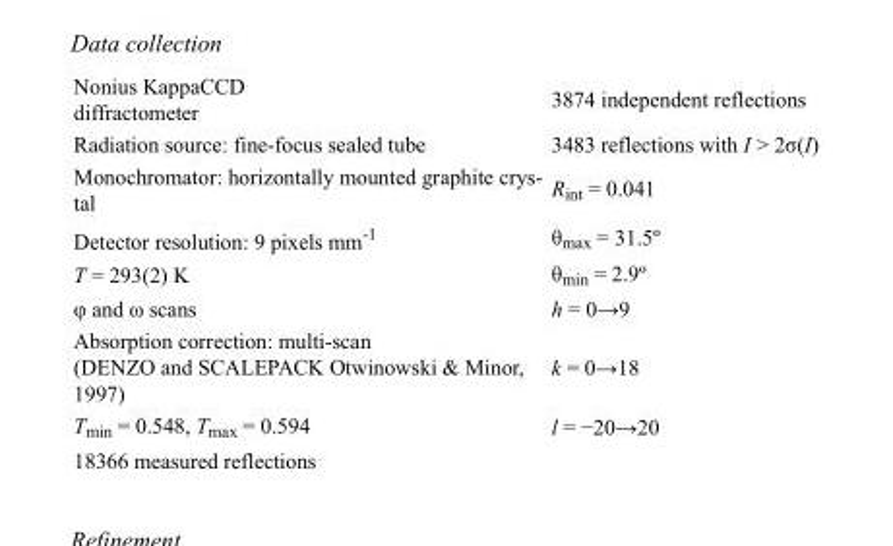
<table><tbody><tr><td>Nonius KappaCCD diffractometer</td><td>3874 independent reflections</td></tr><tr><td>Radiation source: fine-focus sealed tube</td><td>3483 reflections with I &gt; 2σ(I)</td></tr><tr><td>Monochromator: horizontally mounted graphite crys- tal</td><td>R<sub>int</sub> = 0.041</td></tr><tr><td>Detector resolution: 9 pixels mm<sup>-1</sup></td><td>θ<sub>max</sub> = 31.5º</td></tr><tr><td>T = 293(2) K</td><td>θ<sub>min</sub> = 2.9º</td></tr><tr><td>φ and ω scans</td><td>h = 0→9</td></tr><tr><td>Absorption correction: multi-scan (DENZO and SCALEPACK Otwinowski &amp; Minor, 1997)</td><td>k = 0→18</td></tr><tr><td>T<sub>min</sub> = 0.548, T<sub>max</sub> = 0.594</td><td>l = −20→20</td></tr><tr><td>18366 measured reflections</td><td></td></tr></tbody></table>